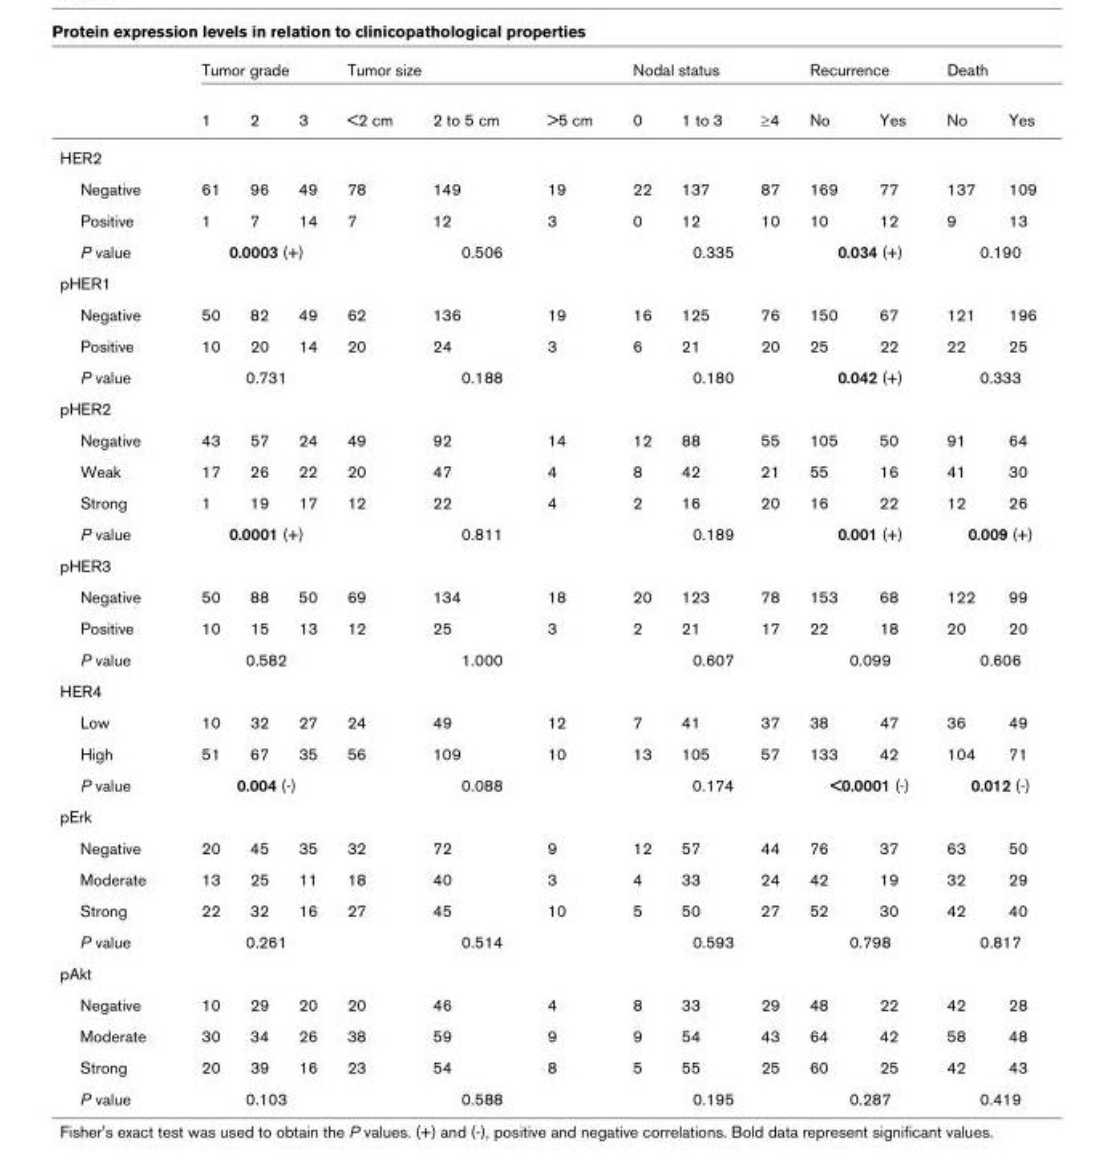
<table><thead><tr><td rowspan="2"></td><td colspan="3">Tumor grade</td><td colspan="3">Tumor size</td><td colspan="3">Nodal status</td><td colspan="2">Recurrence</td><td colspan="2">Death</td></tr><tr><td>1</td><td>2</td><td>3</td><td>&lt;2 cm</td><td>2 to 5 cm</td><td>&gt;5 cm</td><td>0</td><td>1 to 3</td><td>≥4</td><td>No</td><td>Yes</td><td>No</td><td>Yes</td></tr></thead><tbody><tr><td colspan="14">HER2</td></tr><tr><td>Negative</td><td>61</td><td>96</td><td>49</td><td>78</td><td>149</td><td>19</td><td>22</td><td>137</td><td>87</td><td>169</td><td>77</td><td>137</td><td>109</td></tr><tr><td>Positive</td><td>1</td><td>7</td><td>14</td><td>7</td><td>12</td><td>3</td><td>0</td><td>12</td><td>10</td><td>10</td><td>12</td><td>9</td><td>13</td></tr><tr><td>P value</td><td colspan="3">0.0003 (+)</td><td colspan="3">0.506</td><td colspan="3">0.335</td><td colspan="2">0.034 (+)</td><td colspan="2">0.190</td></tr><tr><td colspan="14">pHER1</td></tr><tr><td>Negative</td><td>50</td><td>82</td><td>49</td><td>62</td><td>136</td><td>19</td><td>16</td><td>125</td><td>76</td><td>150</td><td>67</td><td>121</td><td>196</td></tr><tr><td>Positive</td><td>10</td><td>20</td><td>14</td><td>20</td><td>24</td><td>3</td><td>6</td><td>21</td><td>20</td><td>25</td><td>22</td><td>22</td><td>25</td></tr><tr><td>P value</td><td colspan="3">0.731</td><td colspan="3">0.188</td><td colspan="3">0.180</td><td colspan="2">0.042 (+)</td><td colspan="2">0.333</td></tr><tr><td colspan="14">pHER2</td></tr><tr><td>Negative</td><td>43</td><td>57</td><td>24</td><td>49</td><td>92</td><td>14</td><td>12</td><td>88</td><td>55</td><td>105</td><td>50</td><td>91</td><td>64</td></tr><tr><td>Weak</td><td>17</td><td>26</td><td>22</td><td>20</td><td>47</td><td>4</td><td>8</td><td>42</td><td>21</td><td>55</td><td>16</td><td>41</td><td>30</td></tr><tr><td>Strong</td><td>1</td><td>19</td><td>17</td><td>12</td><td>22</td><td>4</td><td>2</td><td>16</td><td>20</td><td>16</td><td>22</td><td>12</td><td>26</td></tr><tr><td>P value</td><td colspan="3">0.0001 (+)</td><td colspan="3">0.811</td><td colspan="3">0.189</td><td colspan="2">0.001 (+)</td><td colspan="2">0.009 (+)</td></tr><tr><td colspan="14">pHER3</td></tr><tr><td>Negative</td><td>50</td><td>88</td><td>50</td><td>69</td><td>134</td><td>18</td><td>20</td><td>123</td><td>78</td><td>153</td><td>68</td><td>122</td><td>99</td></tr><tr><td>Positive</td><td>10</td><td>15</td><td>13</td><td>12</td><td>25</td><td>3</td><td>2</td><td>21</td><td>17</td><td>22</td><td>18</td><td>20</td><td>20</td></tr><tr><td>P value</td><td colspan="3">0.582</td><td colspan="3">1.000</td><td colspan="3">0.607</td><td colspan="2">0.099</td><td colspan="2">0.606</td></tr><tr><td colspan="14">HER4</td></tr><tr><td>Low</td><td>10</td><td>32</td><td>27</td><td>24</td><td>49</td><td>12</td><td>7</td><td>41</td><td>37</td><td>38</td><td>47</td><td>36</td><td>49</td></tr><tr><td>High</td><td>51</td><td>67</td><td>35</td><td>56</td><td>109</td><td>10</td><td>13</td><td>105</td><td>57</td><td>133</td><td>42</td><td>104</td><td>71</td></tr><tr><td>P value</td><td colspan="3">0.004 (-)</td><td colspan="3">0.088</td><td colspan="3">0.174</td><td colspan="2">&lt;0.0001 (-)</td><td colspan="2">0.012 (-)</td></tr><tr><td colspan="14">pErk</td></tr><tr><td>Negative</td><td>20</td><td>45</td><td>35</td><td>32</td><td>72</td><td>9</td><td>12</td><td>57</td><td>44</td><td>76</td><td>37</td><td>63</td><td>50</td></tr><tr><td>Moderate</td><td>13</td><td>25</td><td>11</td><td>18</td><td>40</td><td>3</td><td>4</td><td>33</td><td>24</td><td>42</td><td>19</td><td>32</td><td>29</td></tr><tr><td>Strong</td><td>22</td><td>32</td><td>16</td><td>27</td><td>45</td><td>10</td><td>5</td><td>50</td><td>27</td><td>52</td><td>30</td><td>42</td><td>40</td></tr><tr><td>P value</td><td colspan="3">0.261</td><td colspan="3">0.514</td><td colspan="3">0.593</td><td colspan="2">0.798</td><td colspan="2">0.817</td></tr><tr><td colspan="14">pAkt</td></tr><tr><td>Negative</td><td>10</td><td>29</td><td>20</td><td>20</td><td>46</td><td>4</td><td>8</td><td>33</td><td>29</td><td>48</td><td>22</td><td>42</td><td>28</td></tr><tr><td>Moderate</td><td>30</td><td>34</td><td>26</td><td>38</td><td>59</td><td>9</td><td>9</td><td>54</td><td>43</td><td>64</td><td>42</td><td>58</td><td>48</td></tr><tr><td>Strong</td><td>20</td><td>39</td><td>16</td><td>23</td><td>54</td><td>8</td><td>5</td><td>55</td><td>25</td><td>60</td><td>25</td><td>42</td><td>43</td></tr><tr><td>P value</td><td colspan="3">0.103</td><td colspan="3">0.588</td><td colspan="3">0.195</td><td colspan="2">0.287</td><td colspan="2">0.419</td></tr></tbody></table>